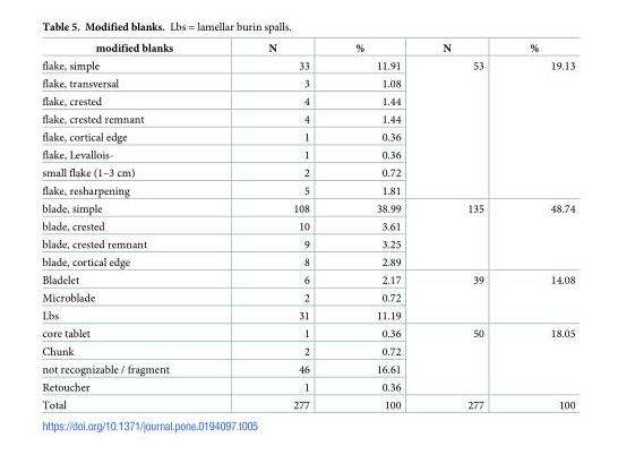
<table><thead><tr><td>modified blanks</td><td>N</td><td>%</td><td>N</td><td>%</td></tr></thead><tbody><tr><td>flake, simple</td><td>33</td><td>11.91</td><td rowspan="8">53</td><td rowspan="8">19.13</td></tr><tr><td>flake, transversal</td><td>3</td><td>1.08</td></tr><tr><td>flake, crested</td><td>4</td><td>1.44</td></tr><tr><td>flake, crested remnant</td><td>4</td><td>1.44</td></tr><tr><td>flake, cortical edge</td><td>1</td><td>0.36</td></tr><tr><td>flake, Levallois-</td><td>1</td><td>0.36</td></tr><tr><td>small flake (1–3 cm)</td><td>2</td><td>0.72</td></tr><tr><td>flake, resharpening</td><td>5</td><td>1.81</td></tr><tr><td>blade, simple</td><td>108</td><td>38.99</td><td rowspan="4">135</td><td rowspan="4">48.74</td></tr><tr><td>blade, crested</td><td>10</td><td>3.61</td></tr><tr><td>blade, crested remnant</td><td>9</td><td>3.25</td></tr><tr><td>blade, cortical edge</td><td>8</td><td>2.89</td></tr><tr><td>Bladelet</td><td>6</td><td>2.17</td><td rowspan="3">39</td><td rowspan="3">14.08</td></tr><tr><td>Microblade</td><td>2</td><td>0.72</td></tr><tr><td>Lbs</td><td>31</td><td>11.19</td></tr><tr><td>core tablet</td><td>1</td><td>0.36</td><td rowspan="4">50</td><td rowspan="4">18.05</td></tr><tr><td>Chunk</td><td>2</td><td>0.72</td></tr><tr><td>not recognizable / fragment</td><td>46</td><td>16.61</td></tr><tr><td>Retoucher</td><td>1</td><td>0.36</td></tr><tr><td>Total</td><td>277</td><td>100</td><td>277</td><td>100</td></tr></tbody></table>